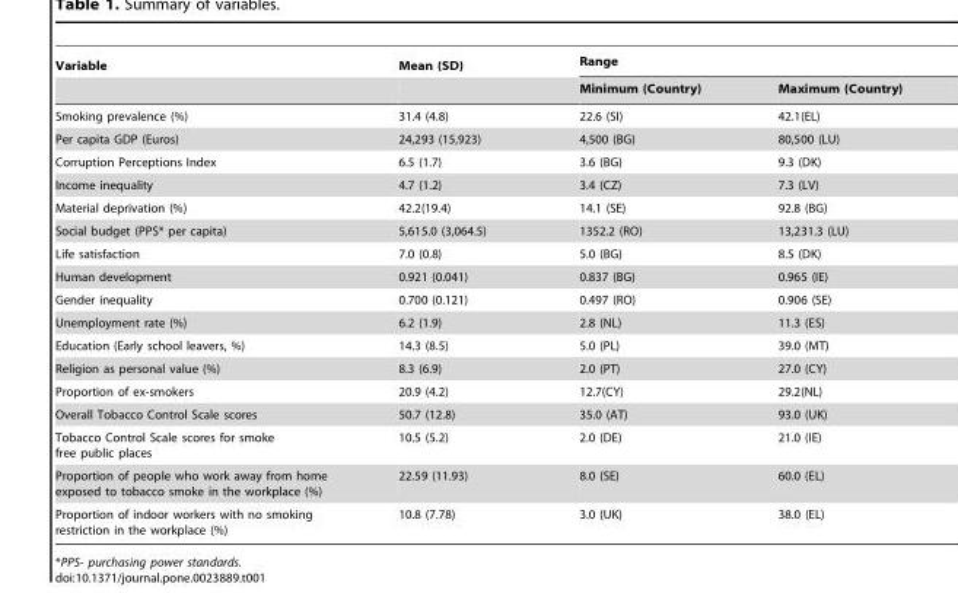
<table><thead><tr><td rowspan="2">Variable</td><td rowspan="2">Mean (SD)</td><td colspan="2">Range</td></tr><tr><td>Minimum (Country)</td><td>Maximum (Country)</td></tr></thead><tbody><tr><td>Smoking prevalence (%)</td><td>31.4 (4.8)</td><td>22.6 (SI)</td><td>42.1(EL)</td></tr><tr><td>Per capita GDP (Euros)</td><td>24,293 (15,923)</td><td>4,500 (BG)</td><td>80,500 (LU)</td></tr><tr><td>Corruption Perceptions Index</td><td>6.5 (1.7)</td><td>3.6 (BG)</td><td>9.3 (DK)</td></tr><tr><td>Income inequality</td><td>4.7 (1.2)</td><td>3.4 (CZ)</td><td>7.3 (LV)</td></tr><tr><td>Material deprivation (%)</td><td>42.2(19.4)</td><td>14.1 (SE)</td><td>92.8 (BG)</td></tr><tr><td>Social budget (PPS* per capita)</td><td>5,615.0 (3,064.5)</td><td>1352.2 (RO)</td><td>13,231.3 (LU)</td></tr><tr><td>Life satisfaction</td><td>7.0 (0.8)</td><td>5.0 (BG)</td><td>8.5 (DK)</td></tr><tr><td>Human development</td><td>0.921 (0.041)</td><td>0.837 (BG)</td><td>0.965 (IE)</td></tr><tr><td>Gender inequality</td><td>0.700 (0.121)</td><td>0.497 (RO)</td><td>0.906 (SE)</td></tr><tr><td>Unemployment rate (%)</td><td>6.2 (1.9)</td><td>2.8 (NL)</td><td>11.3 (ES)</td></tr><tr><td>Education (Early school leavers, %)</td><td>14.3 (8.5)</td><td>5.0 (PL)</td><td>39.0 (MT)</td></tr><tr><td>Religion as personal value (%)</td><td>8.3 (6.9)</td><td>2.0 (PT)</td><td>27.0 (CY)</td></tr><tr><td>Proportion of ex-smokers</td><td>20.9 (4.2)</td><td>12.7(CY)</td><td>29.2(NL)</td></tr><tr><td>Overall Tobacco Control Scale scores</td><td>50.7 (12.8)</td><td>35.0 (AT)</td><td>93.0 (UK)</td></tr><tr><td>Tobacco Control Scale scores for smoke free public places</td><td>10.5 (5.2)</td><td>2.0 (DE)</td><td>21.0 (IE)</td></tr><tr><td>Proportion of people who work away from home exposed to tobacco smoke in the workplace (%)</td><td>22.59 (11.93)</td><td>8.0 (SE)</td><td>60.0 (EL)</td></tr><tr><td>Proportion of indoor workers with no smoking restriction in the workplace (%)</td><td>10.8 (7.78)</td><td>3.0 (UK)</td><td>38.0 (EL)</td></tr></tbody></table>